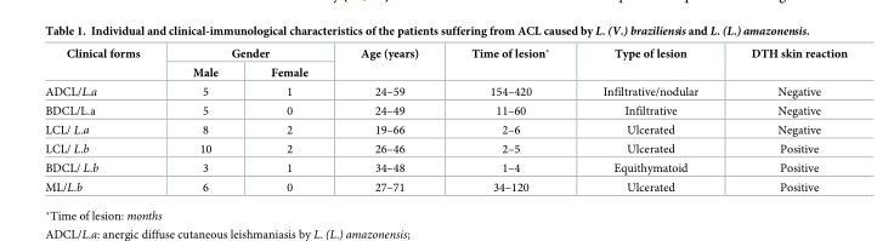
<table><thead><tr><td rowspan="2">Clinical forms</td><td colspan="2">Gender</td><td rowspan="2">Age (years)</td><td rowspan="2">Time of lesion*</td><td rowspan="2">Type of lesion</td><td rowspan="2">DTH skin reaction</td></tr><tr><td>Male</td><td>Female</td></tr></thead><tbody><tr><td>ADCL/L.a</td><td>5</td><td>1</td><td>24–59</td><td>154–420</td><td>Infiltrative/nodular</td><td>Negative</td></tr><tr><td>BDCL/L.a</td><td>5</td><td>0</td><td>24–49</td><td>11–60</td><td>Infiltrative</td><td>Negative</td></tr><tr><td>LCL/ L.a</td><td>8</td><td>2</td><td>19–66</td><td>2–6</td><td>Ulcerated</td><td>Negative</td></tr><tr><td>LCL/ L.b</td><td>10</td><td>2</td><td>26–46</td><td>2–5</td><td>Ulcerated</td><td>Positive</td></tr><tr><td>BDCL/ L.b</td><td>3</td><td>1</td><td>34–48</td><td>1–4</td><td>Equithymatoid</td><td>Positive</td></tr><tr><td>ML/L.b</td><td>6</td><td>0</td><td>27–71</td><td>34–120</td><td>Ulcerated</td><td>Positive</td></tr></tbody></table>